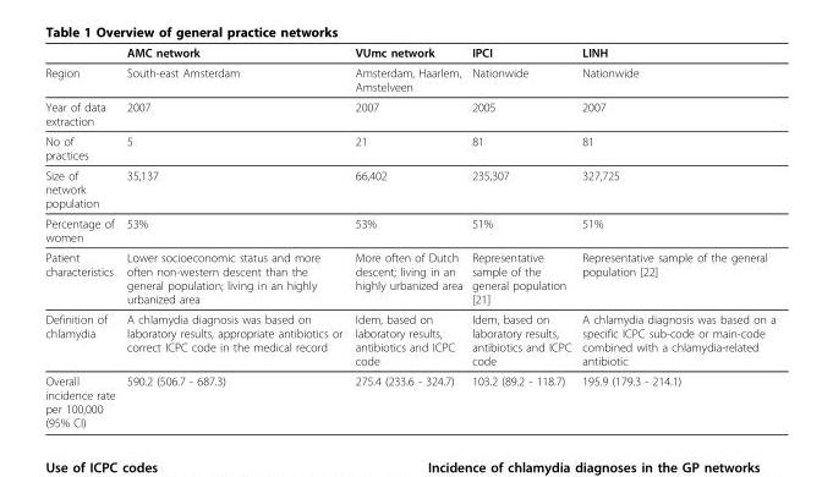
<table><thead><tr><td></td><td>AMC network</td><td>VUmc network</td><td>IPCI</td><td>LINH</td></tr></thead><tbody><tr><td>Region</td><td>South-east Amsterdam</td><td>Amsterdam, Haarlem, Amstelveen</td><td>Nationwide</td><td>Nationwide</td></tr><tr><td>Year of data extraction</td><td>2007</td><td>2007</td><td>2005</td><td>2007</td></tr><tr><td>No of practices</td><td>5</td><td>21</td><td>81</td><td>81</td></tr><tr><td>Size of network population</td><td>35,137</td><td>66,402</td><td>235,307</td><td>327,725</td></tr><tr><td>Percentage of women</td><td>53%</td><td>53%</td><td>51%</td><td>51%</td></tr><tr><td>Patient characteristics</td><td>Lower socioeconomic status and more often non-western descent than the general population; living in an highly urbanized area</td><td>More often of Dutch descent; living in an highly urbanized area</td><td>Representative sample of the general population [21]</td><td>Representative sample of the general population [22]</td></tr><tr><td>Definition of chlamydia</td><td>A chlamydia diagnosis was based on laboratory results, appropriate antibiotics or correct ICPC code in the medical record</td><td>Idem, based on laboratory results, antibiotics and ICPC code</td><td>Idem, based on laboratory results, antibiotics and ICPC code</td><td>A chlamydia diagnosis was based on a specific ICPC sub-code or main-code combined with a chlamydia-related antibiotic</td></tr><tr><td>Overall incidence rate per 100,000 (95% CI)</td><td>590.2 (506.7 - 687.3)</td><td>275.4 (233.6 - 324.7)</td><td>103.2 (89.2 - 118.7)</td><td>195.9 (179.3 - 214.1)</td></tr></tbody></table>